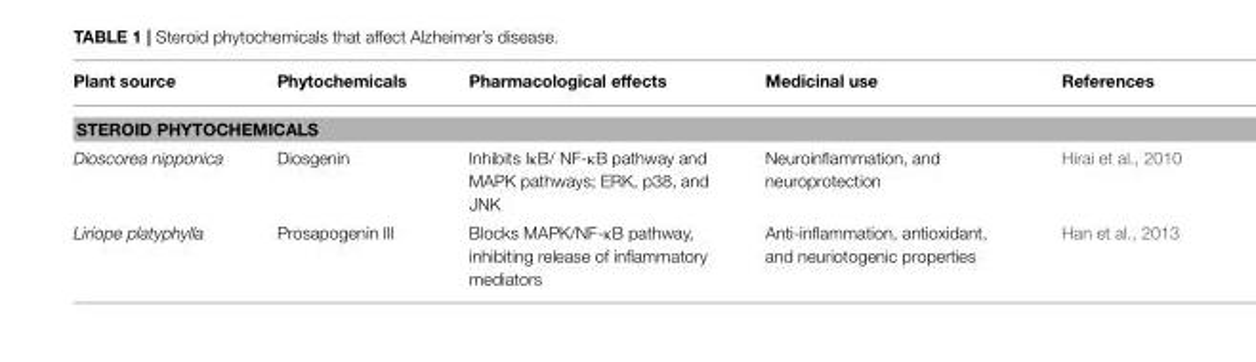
<table><thead><tr><td>Plant source</td><td>Phytochemicals</td><td>Pharmacological effects</td><td>Medicinal use</td><td>References</td></tr></thead><tbody><tr><td colspan="5">STEROID PHYTOCHEMICALS</td></tr><tr><td>Dioscorea nipponica</td><td>Diosgenin</td><td>Inhibits IκB/ NF-κB pathway and MAPK pathways; ERK, p38, and JNK</td><td>Neuroinflammation, and neuroprotection</td><td>Hirai et al., 2010</td></tr><tr><td>Liriope platyphylla</td><td>Prosapogenin III</td><td>Blocks MAPK/NF-κB pathway, inhibiting release of inflammatory mediators</td><td>Anti-inflammation, antioxidant, and neuriotogenic properties</td><td>Han et al., 2013</td></tr></tbody></table>